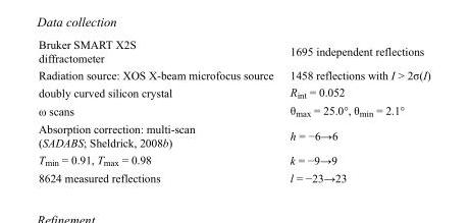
<table><tbody><tr><td>Bruker SMART X2S diffractometer</td><td>1695 independent reflections</td></tr><tr><td>Radiation source: XOS X-beam microfocus source</td><td>1458 reflections with I &gt; 2σ(I)</td></tr><tr><td>doubly curved silicon crystal</td><td>R<sub>int</sub> = 0.052</td></tr><tr><td>ω scans</td><td>θ<sub>max</sub> = 25.0°, θ<sub>min</sub> = 2.1°</td></tr><tr><td>Absorption correction: multi-scan (SADABS; Sheldrick, 2008b)</td><td>h = −6→6</td></tr><tr><td>T<sub>min</sub> = 0.91, T<sub>max</sub> = 0.98</td><td>k = −9→9</td></tr><tr><td>8624 measured reflections</td><td>l = −23→23</td></tr></tbody></table>